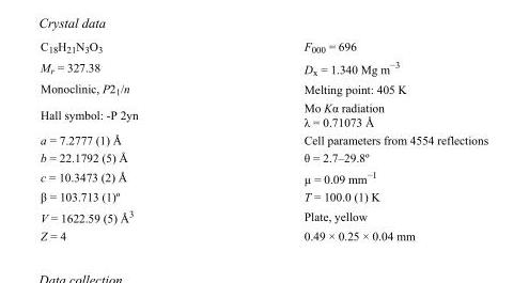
<table><tbody><tr><td>C<sub>18</sub>H<sub>21</sub>N<sub>3</sub>O<sub>3</sub></td><td>F000 = 696</td></tr><tr><td>M<sub>r</sub> = 327.38</td><td>D<sub>x</sub> = 1.340 Mg m<sup>−3</sup></td></tr><tr><td>Monoclinic, P2<sub>1</sub>/n</td><td>Melting point: 405 K</td></tr><tr><td>Hall symbol: -P 2yn</td><td>Mo Kα radiation λ = 0.71073 Å</td></tr><tr><td>a = 7.2777 (1) Å</td><td>Cell parameters from 4554 reflections</td></tr><tr><td>b = 22.1792 (5) Å</td><td>θ = 2.7–29.8º</td></tr><tr><td>c = 10.3473 (2) Å</td><td>µ = 0.09 mm<sup>−1</sup></td></tr><tr><td>β = 103.713 (1)º</td><td>T = 100.0 (1) K</td></tr><tr><td>V = 1622.59 (5) Å<sup>3</sup></td><td>Plate, yellow</td></tr><tr><td>Z = 4</td><td>0.49 × 0.25 × 0.04 mm</td></tr></tbody></table>